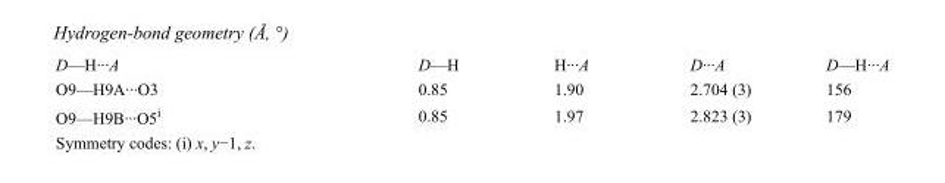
<table><tbody><tr><td>D—H···A</td><td>D—H</td><td>H···A</td><td>D···A</td><td>D—H···A</td></tr><tr><td>O9—H9A···O3</td><td>0.85</td><td>1.90</td><td>2.704 (3)</td><td>156</td></tr><tr><td>O9—H9B···O5<sup>i</sup></td><td>0.85</td><td>1.97</td><td>2.823 (3)</td><td>179</td></tr></tbody></table>